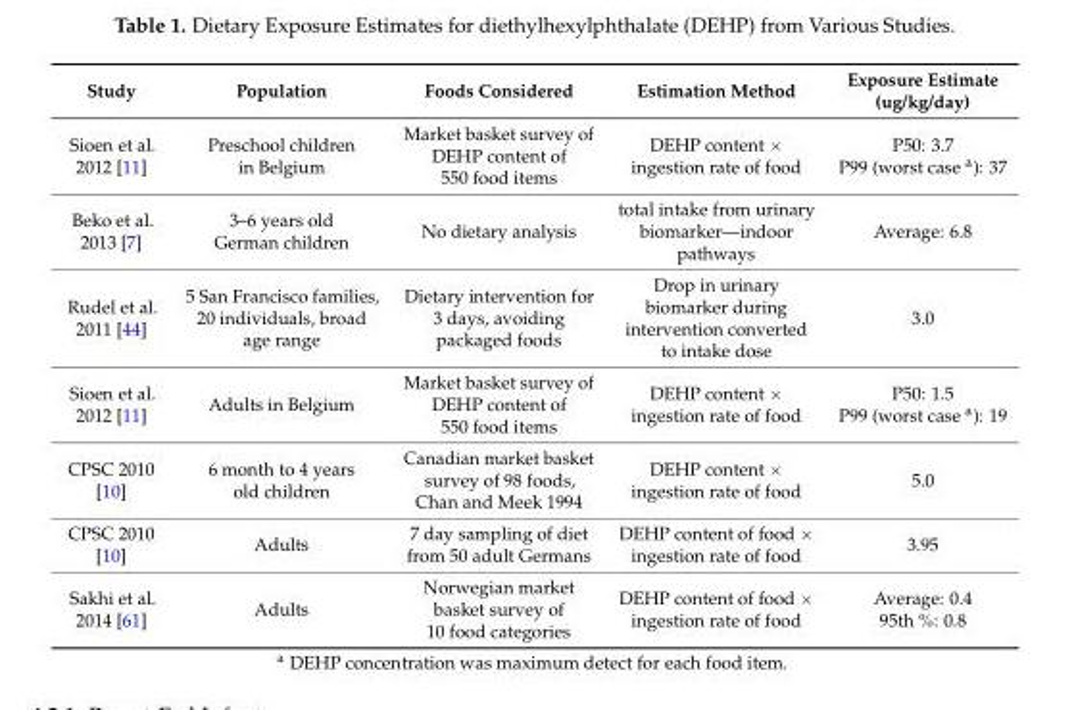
<table><thead><tr><td>Study</td><td>Population</td><td>Foods Considered</td><td>Estimation Method</td><td>Exposure Estimate (ug/kg/day)</td></tr></thead><tbody><tr><td>Sioen et al. 2012 [11]</td><td>Preschool children in Belgium</td><td>Market basket survey of DEHP content of 550 food items</td><td>DEHP content ˆ ingestion rate of food</td><td>P50: 3.7 P99 (worst case <sup>a</sup>): 37</td></tr><tr><td>Beko et al. 2013 [7]</td><td>3–6 years old German children</td><td>No dietary analysis</td><td>total intake from urinary biomarker—indoor pathways</td><td>Average: 6.8</td></tr><tr><td>Rudel et al. 2011 [44]</td><td>5 San Francisco families, 20 individuals, broad age range</td><td>Dietary intervention for 3 days, avoiding packaged foods</td><td>Drop in urinary biomarker during intervention converted to intake dose</td><td>3.0</td></tr><tr><td>Sioen et al. 2012 [11]</td><td>Adults in Belgium</td><td>Market basket survey of DEHP content of 550 food items</td><td>DEHP content ˆ ingestion rate of food</td><td>P50: 1.5 P99 (worst case <sup>a</sup>): 19</td></tr><tr><td>CPSC 2010 [10]</td><td>6 month to 4 years old children</td><td>Canadian market basket survey of 98 foods, Chan and Meek 1994</td><td>DEHP content ˆ ingestion rate of food</td><td>5.0</td></tr><tr><td>CPSC 2010 [10]</td><td>Adults</td><td>7 day sampling of diet from 50 adult Germans</td><td>DEHP content of food ˆ ingestion rate of food</td><td>3.95</td></tr><tr><td>Sakhi et al. 2014 [61]</td><td>Adults</td><td>Norwegian market basket survey of 10 food categories</td><td>DEHP content of food ˆ ingestion rate of food</td><td>Average: 0.4 95th %: 0.8</td></tr></tbody></table>